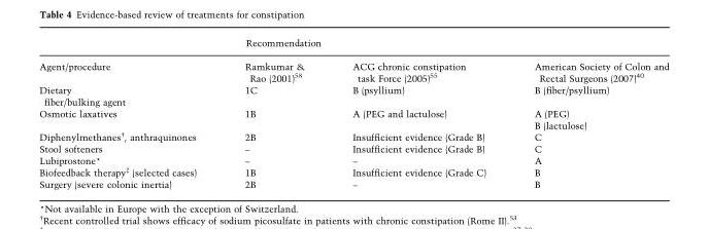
<table><thead><tr><td colspan="4">Recommendation</td></tr><tr><td>Agent/procedure</td><td>Ramkumar &amp; Rao (2001)<sup>58</sup></td><td>ACG chronic constipation task Force (2005)<sup>55</sup></td><td>American Society of Colon and Rectal Surgeons (2007)<sup>40</sup></td></tr></thead><tbody><tr><td>Dietary fiber/bulking agent</td><td>1C</td><td>B (psyllium)</td><td>B (fiber/psyllium)</td></tr><tr><td>Osmotic laxatives</td><td>1B</td><td>A (PEG and lactulose)</td><td>A (PEG) B (lactulose)</td></tr><tr><td>Diphenylmethanes†, anthraquinones</td><td>2B</td><td>Insufficient evidence (Grade B)</td><td>C</td></tr><tr><td>Stool softeners</td><td>–</td><td>Insufficient evidence (Grade B)</td><td>C</td></tr><tr><td>Lubiprostone*</td><td>–</td><td>–</td><td>A</td></tr><tr><td>Biofeedback therapy‡ (selected cases)</td><td>1B</td><td>Insufficient evidence (Grade C)</td><td>B</td></tr><tr><td>Surgery (severe colonic inertia)</td><td>2B</td><td>–</td><td>B</td></tr></tbody></table>